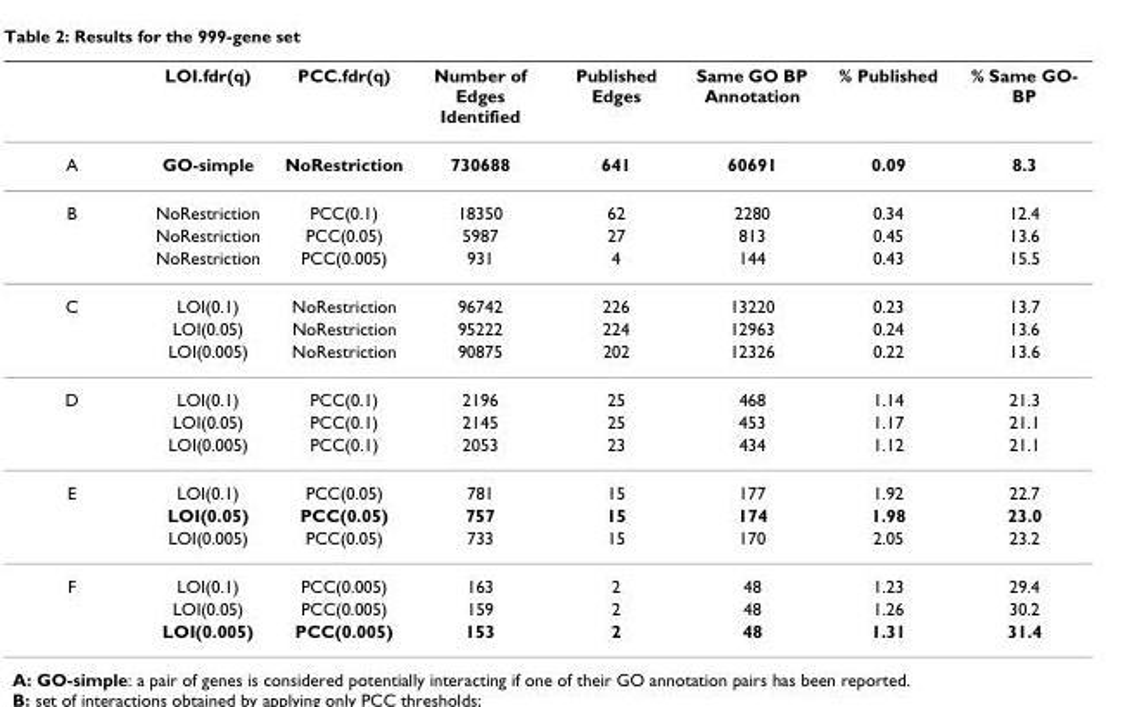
<table><thead><tr><td></td><td>LOI.fdr(q)</td><td>PCC.fdr(q)</td><td>Number of Edges Identified</td><td>Published Edges</td><td>Same GO BP Annotation</td><td>% Published</td><td>% Same GO- BP</td></tr></thead><tbody><tr><td>A</td><td>GO-simple</td><td>NoRestriction</td><td>730688</td><td>641</td><td>60691</td><td>0.09</td><td>8.3</td></tr><tr><td rowspan="3">B</td><td>NoRestriction</td><td>PCC(0.1)</td><td>18350</td><td>62</td><td>2280</td><td>0.34</td><td>12.4</td></tr><tr><td>NoRestriction</td><td>PCC(0.05)</td><td>5987</td><td>27</td><td>813</td><td>0.45</td><td>13.6</td></tr><tr><td>NoRestriction</td><td>PCC(0.005)</td><td>931</td><td>4</td><td>144</td><td>0.43</td><td>15.5</td></tr><tr><td rowspan="3">C</td><td>LOI(0.1)</td><td>NoRestriction</td><td>96742</td><td>226</td><td>13220</td><td>0.23</td><td>13.7</td></tr><tr><td>LOI(0.05)</td><td>NoRestriction</td><td>95222</td><td>224</td><td>12963</td><td>0.24</td><td>13.6</td></tr><tr><td>LOI(0.005)</td><td>NoRestriction</td><td>90875</td><td>202</td><td>12326</td><td>0.22</td><td>13.6</td></tr><tr><td rowspan="3">D</td><td>LOI(0.1)</td><td>PCC(0.1)</td><td>2196</td><td>25</td><td>468</td><td>1.14</td><td>21.3</td></tr><tr><td>LOI(0.05)</td><td>PCC(0.1)</td><td>2145</td><td>25</td><td>453</td><td>1.17</td><td>21.1</td></tr><tr><td>LOI(0.005)</td><td>PCC(0.1)</td><td>2053</td><td>23</td><td>434</td><td>1.12</td><td>21.1</td></tr><tr><td rowspan="3">E</td><td>LOI(0.1)</td><td>PCC(0.05)</td><td>781</td><td>15</td><td>177</td><td>1.92</td><td>22.7</td></tr><tr><td>LOI(0.05)</td><td>PCC(0.05)</td><td>757</td><td>15</td><td>174</td><td>1.98</td><td>23.0</td></tr><tr><td>LOI(0.005)</td><td>PCC(0.05)</td><td>733</td><td>15</td><td>170</td><td>2.05</td><td>23.2</td></tr><tr><td rowspan="3">F</td><td>LOI(0.1)</td><td>PCC(0.005)</td><td>163</td><td>2</td><td>48</td><td>1.23</td><td>29.4</td></tr><tr><td>LOI(0.05)</td><td>PCC(0.005)</td><td>159</td><td>2</td><td>48</td><td>1.26</td><td>30.2</td></tr><tr><td>LOI(0.005)</td><td>PCC(0.005)</td><td>153</td><td>2</td><td>48</td><td>1.31</td><td>31.4</td></tr></tbody></table>